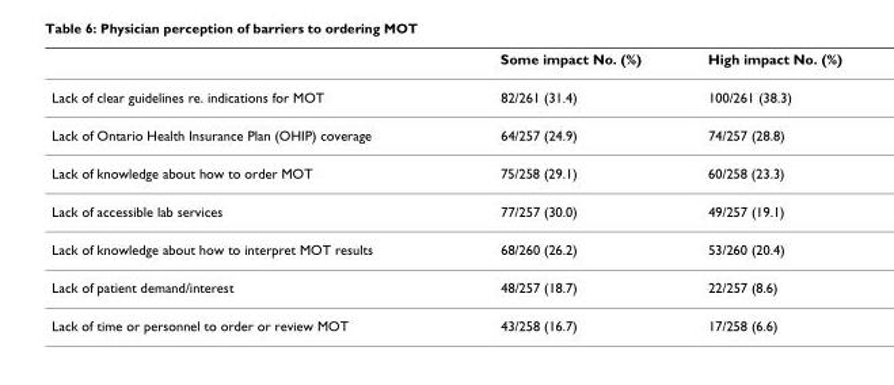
<table><thead><tr><td></td><td>Some impact No. (%)</td><td>High impact No. (%)</td></tr></thead><tbody><tr><td>Lack of clear guidelines re. indications for MOT</td><td>82/261 (31.4)</td><td>100/261 (38.3)</td></tr><tr><td>Lack of Ontario Health Insurance Plan (OHIP) coverage</td><td>64/257 (24.9)</td><td>74/257 (28.8)</td></tr><tr><td>Lack of knowledge about how to order MOT</td><td>75/258 (29.1)</td><td>60/258 (23.3)</td></tr><tr><td>Lack of accessible lab services</td><td>77/257 (30.0)</td><td>49/257 (19.1)</td></tr><tr><td>Lack of knowledge about how to interpret MOT results</td><td>68/260 (26.2)</td><td>53/260 (20.4)</td></tr><tr><td>Lack of patient demand/interest</td><td>48/257 (18.7)</td><td>22/257 (8.6)</td></tr><tr><td>Lack of time or personnel to order or review MOT</td><td>43/258 (16.7)</td><td>17/258 (6.6)</td></tr></tbody></table>